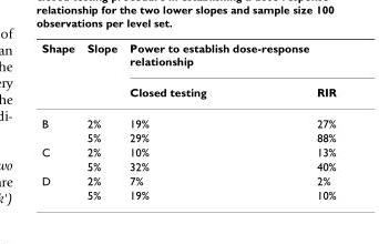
<table><thead><tr><td rowspan="2">Shape</td><td rowspan="2">Slope</td><td colspan="2">Power to establish dose-response relationship</td></tr><tr><td>Closed testing</td><td>RIR</td></tr></thead><tbody><tr><td rowspan="2">B</td><td>2%</td><td>19%</td><td>27%</td></tr><tr><td>5%</td><td>29%</td><td>88%</td></tr><tr><td rowspan="2">C</td><td>2%</td><td>10%</td><td>13%</td></tr><tr><td>5%</td><td>32%</td><td>40%</td></tr><tr><td rowspan="2">D</td><td>2%</td><td>7%</td><td>2%</td></tr><tr><td>5%</td><td>19%</td><td>10%</td></tr></tbody></table>